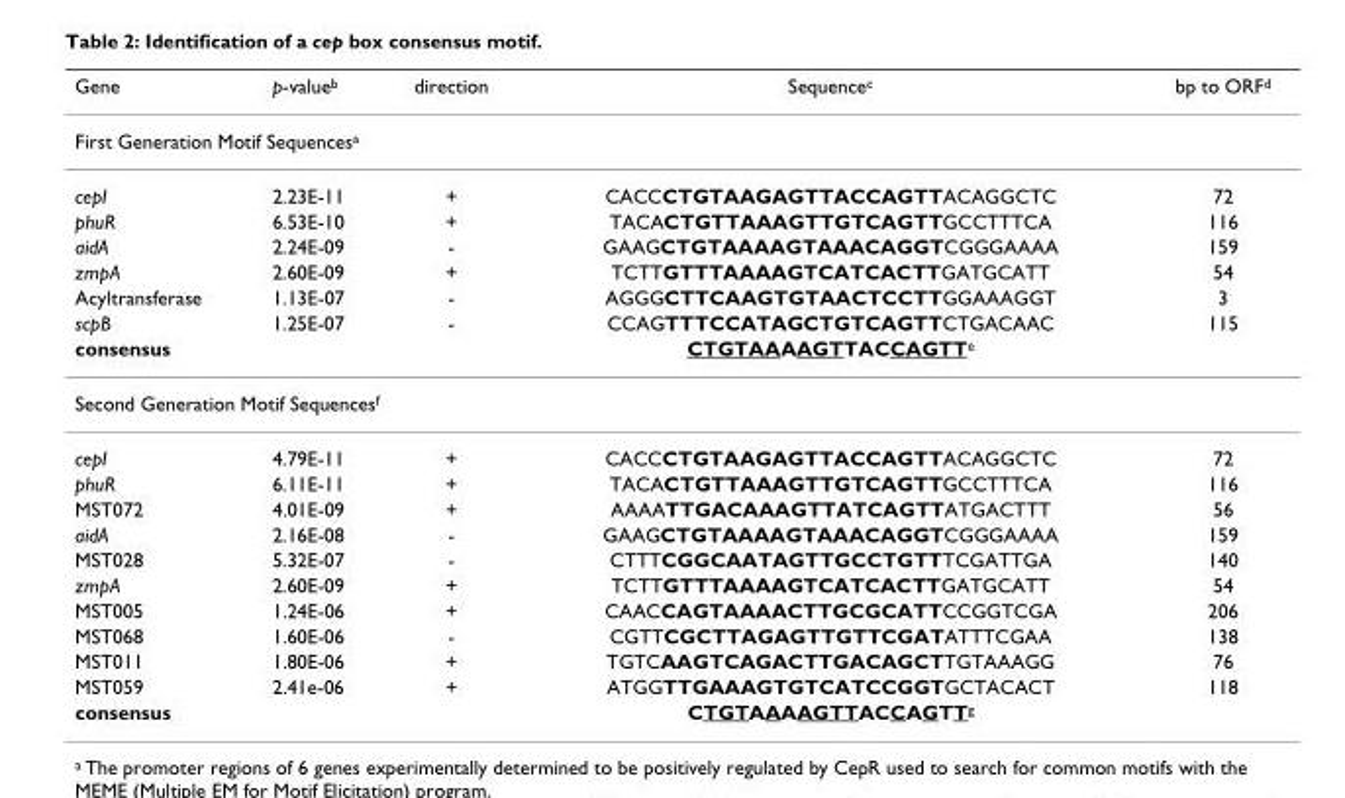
<table><thead><tr><td>Gene</td><td>p-valueb</td><td>direction</td><td>Sequencec</td><td>bp to ORFd</td></tr></thead><tbody><tr><td colspan="5">First Generation Motif Sequencesa</td></tr><tr><td>cepI</td><td>2.23E-11</td><td>+</td><td>CACCCTGTAAGAGTTACCAGTTACAGGCTC</td><td>72</td></tr><tr><td>phuR</td><td>6.53E-10</td><td>+</td><td>TACACTGTTAAAGTTGTCAGTTGCCTTTCA</td><td>116</td></tr><tr><td>aidA</td><td>2.24E-09</td><td>-</td><td>GAAGCTGTAAAAGTAAACAGGTCGGGAAAA</td><td>159</td></tr><tr><td>zmpA</td><td>2.60E-09</td><td>+</td><td>TCTTGTTTAAAAGTCATCACTTGATGCATT</td><td>54</td></tr><tr><td>Acyltransferase</td><td>1.13E-07</td><td>-</td><td>AGGGCTTCAAGTGTAACTCCTTGGAAAGGT</td><td>3</td></tr><tr><td>scpB</td><td>1.25E-07</td><td>-</td><td>CCAGTTTCCATAGCTGTCAGTTCTGACAAC</td><td>115</td></tr><tr><td>consensus</td><td></td><td></td><td>CTGTAAAAGTTACCAGTTe</td><td></td></tr><tr><td colspan="5">Second Generation Motif Sequencesf</td></tr><tr><td>cepI</td><td>4.79E-11</td><td>+</td><td>CACCCTGTAAGAGTTACCAGTTACAGGCTC</td><td>72</td></tr><tr><td>phuR</td><td>6.11E-11</td><td>+</td><td>TACACTGTTAAAGTTGTCAGTTGCCTTTCA</td><td>116</td></tr><tr><td>MST072</td><td>4.01E-09</td><td>+</td><td>AAAATTGACAAAGTTATCAGTTATGACTTT</td><td>56</td></tr><tr><td>aidA</td><td>2.16E-08</td><td>-</td><td>GAAGCTGTAAAAGTAAACAGGTCGGGAAAA</td><td>159</td></tr><tr><td>MST028</td><td>5.32E-07</td><td>-</td><td>CTTTCGGCAATAGTTGCCTGTTTCGATTGA</td><td>140</td></tr><tr><td>zmpA</td><td>2.60E-09</td><td>+</td><td>TCTTGTTTAAAAGTCATCACTTGATGCATT</td><td>54</td></tr><tr><td>MST005</td><td>1.24E-06</td><td>+</td><td>CAACCAGTAAAACTTGCGCATTCCGGTCGA</td><td>206</td></tr><tr><td>MST068</td><td>1.60E-06</td><td>-</td><td>CGTTCGCTTAGAGTTGTTCGATATTTCGAA</td><td>138</td></tr><tr><td>MST011</td><td>1.80E-06</td><td>+</td><td>TGTCAAGTCAGACTTGACAGCTTGTAAAGG</td><td>76</td></tr><tr><td>MST059</td><td>2.41e-06</td><td>+</td><td>ATGGTTGAAAGTGTCATCCGGTGCTACACT</td><td>118</td></tr><tr><td>consensus</td><td></td><td></td><td>CTGTAAAAGTTACCAGTTg</td><td></td></tr></tbody></table>